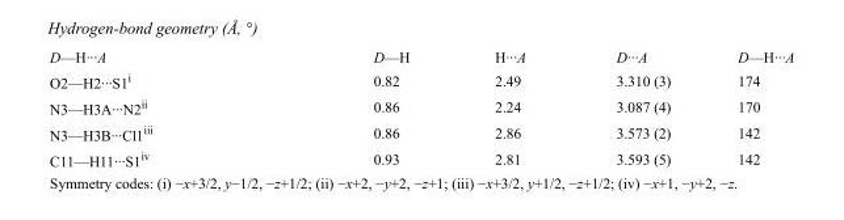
<table><tbody><tr><td>D—H···A</td><td>D—H</td><td>H···A</td><td>D···A</td><td>D—H···A</td></tr><tr><td>O2—H2···S1<sup>i</sup></td><td>0.82</td><td>2.49</td><td>3.310 (3)</td><td>174</td></tr><tr><td>N3—H3A···N2<sup>ii</sup></td><td>0.86</td><td>2.24</td><td>3.087 (4)</td><td>170</td></tr><tr><td>N3—H3B···Cl1<sup>iii</sup></td><td>0.86</td><td>2.86</td><td>3.573 (2)</td><td>142</td></tr><tr><td>C11—H11···S1<sup>iv</sup></td><td>0.93</td><td>2.81</td><td>3.593 (5)</td><td>142</td></tr></tbody></table>